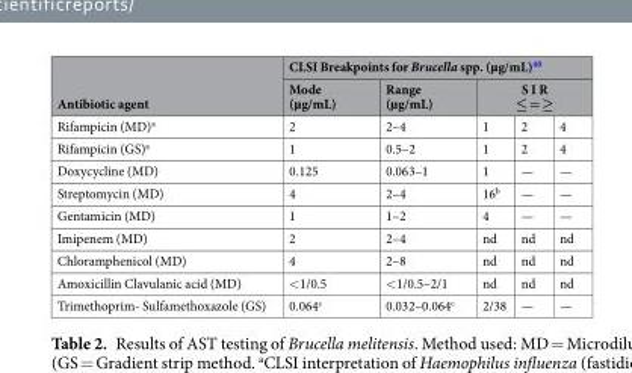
<table><thead><tr><td rowspan="3">Antibiotic agent Rifampicin (MD)<sup>a</sup></td><td colspan="5">CLSI Breakpoints for Brucella spp. (µg/mL)<sup>40</sup></td></tr><tr><td rowspan="2">Mode (µg/mL) 2</td><td rowspan="2">Range (µg/mL) 2–4</td><td colspan="3">S I R ≤ = ≥</td></tr><tr><td>1</td><td>2</td><td>4</td></tr></thead><tbody><tr><td>Rifampicin (GS)<sup>a</sup></td><td>1</td><td>0.5–2</td><td>1</td><td>2</td><td>4</td></tr><tr><td>Doxycycline (MD)</td><td>0.125</td><td>0.063–1</td><td>1</td><td>—</td><td>—</td></tr><tr><td>Streptomycin (MD)</td><td>4</td><td>2–4</td><td>16<sup>b</sup></td><td>—</td><td>—</td></tr><tr><td>Gentamicin (MD)</td><td>1</td><td>1–2</td><td>4</td><td>—</td><td>—</td></tr><tr><td>Imipenem (MD)</td><td>2</td><td>2–4</td><td>nd</td><td>nd</td><td>nd</td></tr><tr><td>Chloramphenicol (MD)</td><td>4</td><td>2–8</td><td>nd</td><td>nd</td><td>nd</td></tr><tr><td>Amoxicillin Clavulanic acid (MD)</td><td>&lt;1/0.5</td><td>&lt;1/0.5–2/1</td><td>nd</td><td>nd</td><td>nd</td></tr><tr><td>Trimethoprim- Sulfamethoxazole (GS)</td><td>0.064<sup>c</sup></td><td>0.032–0.064<sup>c</sup></td><td>2/38</td><td>—</td><td>—</td></tr></tbody></table>